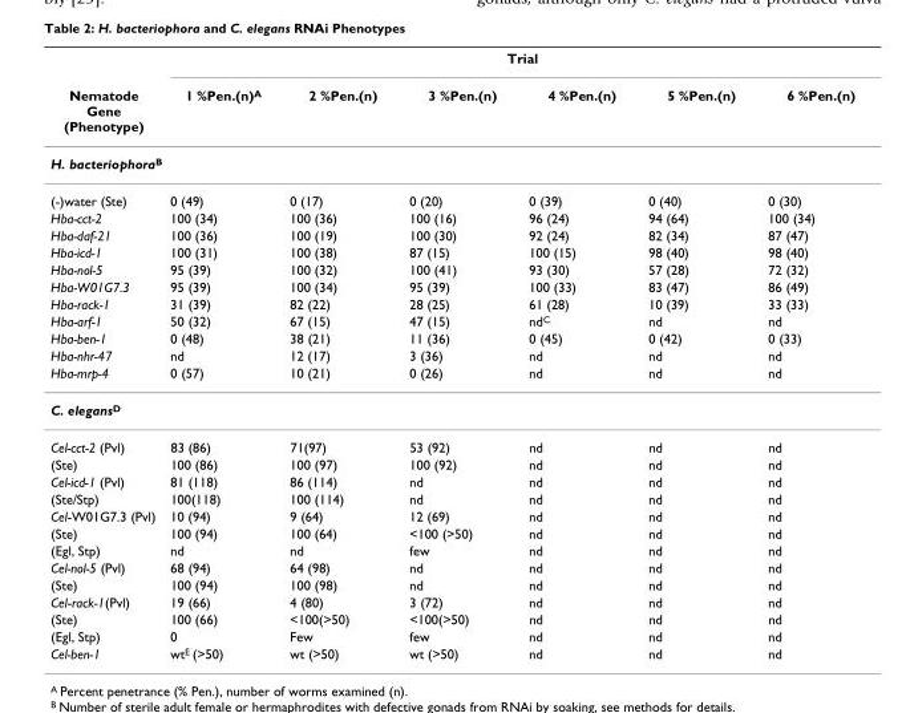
<table><thead><tr><td rowspan="2">Nematode Gene (Phenotype)</td><td colspan="6">Trial</td></tr><tr><td>1 %Pen.(n)<sup>A</sup></td><td>2 %Pen.(n)</td><td>3 %Pen.(n)</td><td>4 %Pen.(n)</td><td>5 %Pen.(n)</td><td>6 %Pen.(n)</td></tr></thead><tbody><tr><td colspan="7">H. bacteriophora<sup>B</sup></td></tr><tr><td>(-)water (Ste)</td><td>0 (49)</td><td>0 (17)</td><td>0 (20)</td><td>0 (39)</td><td>0 (40)</td><td>0 (30)</td></tr><tr><td>Hba-cct-2</td><td>100 (34)</td><td>100 (36)</td><td>100 (16)</td><td>96 (24)</td><td>94 (64)</td><td>100 (34)</td></tr><tr><td>Hba-daf-21</td><td>100 (36)</td><td>100 (19)</td><td>100 (30)</td><td>92 (24)</td><td>82 (34)</td><td>87 (47)</td></tr><tr><td>Hba-icd-1</td><td>100 (31)</td><td>100 (38)</td><td>87 (15)</td><td>100 (15)</td><td>98 (40)</td><td>98 (40)</td></tr><tr><td>Hba-nol-5</td><td>95 (39)</td><td>100 (32)</td><td>100 (41)</td><td>93 (30)</td><td>57 (28)</td><td>72 (32)</td></tr><tr><td>Hba-W01G7.3</td><td>95 (39)</td><td>100 (34)</td><td>95 (39)</td><td>100 (33)</td><td>83 (47)</td><td>86 (49)</td></tr><tr><td>Hba-rack-1</td><td>31 (39)</td><td>82 (22)</td><td>28 (25)</td><td>61 (28)</td><td>10 (39)</td><td>33 (33)</td></tr><tr><td>Hba-arf-1</td><td>50 (32)</td><td>67 (15)</td><td>47 (15)</td><td>nd<sup>C</sup></td><td>nd</td><td>nd</td></tr><tr><td>Hba-ben-1</td><td>0 (48)</td><td>38 (21)</td><td>11 (36)</td><td>0 (45)</td><td>0 (42)</td><td>0 (33)</td></tr><tr><td>Hba-nhr-47</td><td>nd</td><td>12 (17)</td><td>3 (36)</td><td>nd</td><td>nd</td><td>nd</td></tr><tr><td>Hba-mrp-4</td><td>0 (57)</td><td>10 (21)</td><td>0 (26)</td><td>nd</td><td>nd</td><td>nd</td></tr><tr><td colspan="7">C. elegans<sup>D</sup></td></tr><tr><td>Cel-cct-2 (Pvl)</td><td>83 (86)</td><td>71(97)</td><td>53 (92)</td><td>nd</td><td>nd</td><td>nd</td></tr><tr><td>(Ste)</td><td>100 (86)</td><td>100 (97)</td><td>100 (92)</td><td>nd</td><td>nd</td><td>nd</td></tr><tr><td>Cel-icd-1 (Pvl)</td><td>81 (118)</td><td>86 (114)</td><td>nd</td><td>nd</td><td>nd</td><td>nd</td></tr><tr><td>(Ste/Stp)</td><td>100(118)</td><td>100 (114)</td><td>nd</td><td>nd</td><td>nd</td><td>nd</td></tr><tr><td>Cel-W01G7.3 (Pvl)</td><td>10 (94)</td><td>9 (64)</td><td>12 (69)</td><td>nd</td><td>nd</td><td>nd</td></tr><tr><td>(Ste)</td><td>100 (94)</td><td>100 (64)</td><td>&lt;100 (&gt;50)</td><td>nd</td><td>nd</td><td>nd</td></tr><tr><td>(Egl, Stp)</td><td>nd</td><td>nd</td><td>few</td><td>nd</td><td>nd</td><td>nd</td></tr><tr><td>Cel-nol-5 (Pvl)</td><td>68 (94)</td><td>64 (98)</td><td>nd</td><td>nd</td><td>nd</td><td>nd</td></tr><tr><td>(Ste)</td><td>100 (94)</td><td>100 (98)</td><td>nd</td><td>nd</td><td>nd</td><td>nd</td></tr><tr><td>Cel-rack-1(Pvl)</td><td>19 (66)</td><td>4 (80)</td><td>3 (72)</td><td>nd</td><td>nd</td><td>nd</td></tr><tr><td>(Ste)</td><td>100 (66)</td><td>&lt;100(&gt;50)</td><td>&lt;100(&gt;50)</td><td>nd</td><td>nd</td><td>nd</td></tr><tr><td>(Egl, Stp)</td><td>0</td><td>Few</td><td>few</td><td>nd</td><td>nd</td><td>nd</td></tr><tr><td>Cel-ben-1</td><td>wt<sup>E</sup> (&gt;50)</td><td>wt (&gt;50)</td><td>wt (&gt;50)</td><td>nd</td><td>nd</td><td>nd</td></tr></tbody></table>